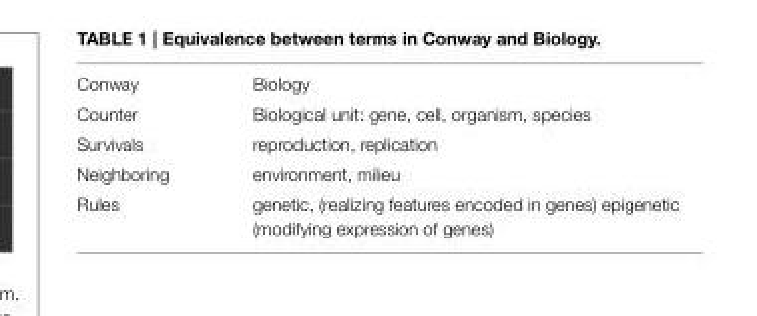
<table><tbody><tr><td>Conway</td><td>Biology</td></tr><tr><td>Counter</td><td>Biological unit: gene, cell, organism, species</td></tr><tr><td>Survivals</td><td>reproduction, replication</td></tr><tr><td>Neighboring</td><td>environment, milieu</td></tr><tr><td>Rules</td><td>genetic, (realizing features encoded in genes) epigenetic (modifying expression of genes)</td></tr></tbody></table>